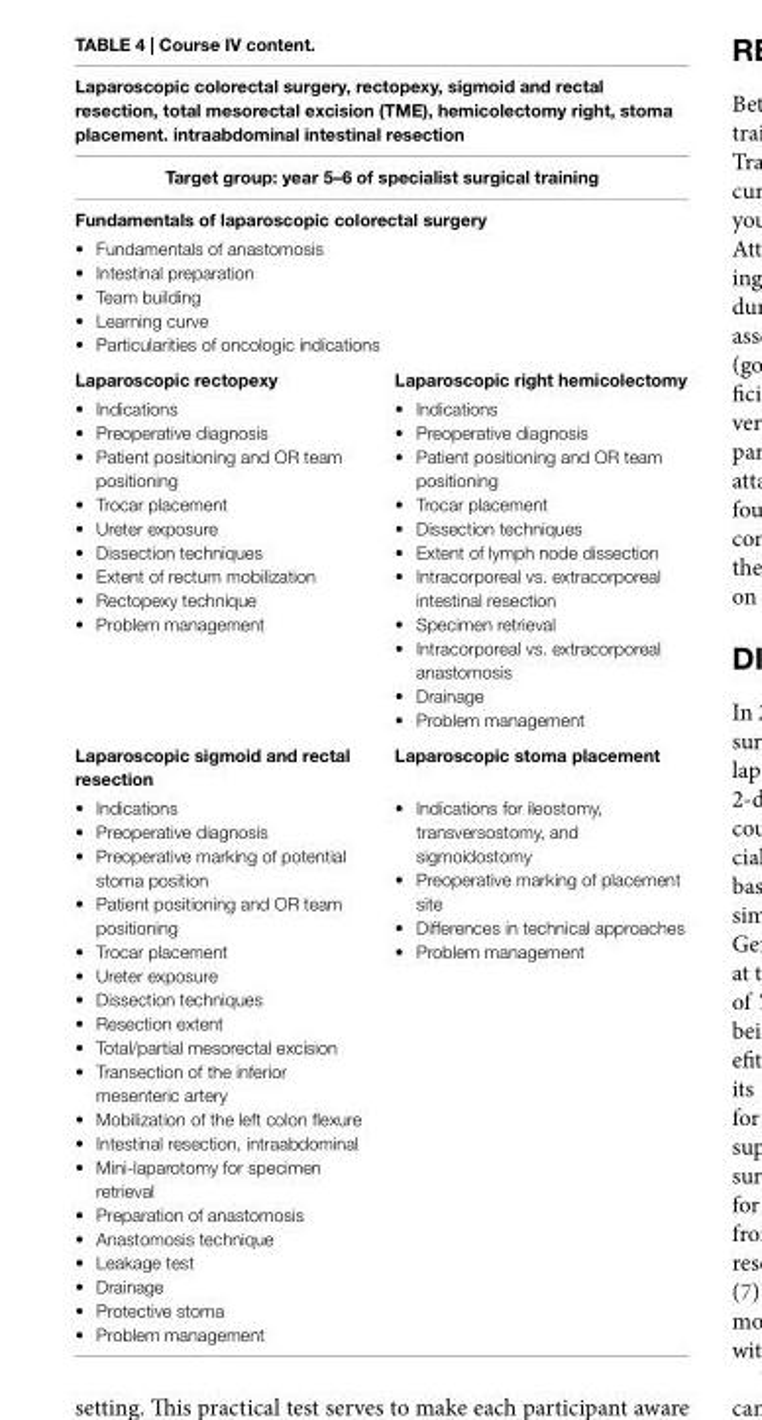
<table><thead><tr><td rowspan="4" colspan="2">laparoscopic colorectal surgery, rectopexy, sigmoid and rectal resection, total mesorectal excision (tme), hemicolectomy right, stoma placement. intraabdominal intestinal resection target group: year 5–6 of specialist surgical training Fundamentals of laparoscopic colorectal surgery • Fundamentals of anastomosis • Intestinal preparation • Team building • Learning curve • Particularities of oncologic indications</td></tr><tr></tr><tr></tr><tr></tr><tr><td>laparoscopic rectopexy</td><td>laparoscopic right hemicolectomy</td></tr></thead><tbody><tr><td>• Indications • Preoperative diagnosis • Patient positioning and OR team positioning • Trocar placement • Ureter exposure • Dissection techniques • Extent of rectum mobilization • Rectopexy technique • Problem management</td><td>• Indications • Preoperative diagnosis • Patient positioning and OR team positioning • Trocar placement • Dissection techniques • Extent of lymph node dissection • Intracorporeal vs. extracorporeal intestinal resection • Specimen retrieval • Intracorporeal vs. extracorporeal anastomosis • Drainage • Problem management</td></tr><tr><td>laparoscopic sigmoid and rectal resection</td><td>laparoscopic stoma placement</td></tr><tr><td>• Indications • Preoperative diagnosis • Preoperative marking of potential stoma position • Patient positioning and OR team positioning • Trocar placement • Ureter exposure • Dissection techniques • Resection extent • Total/partial mesorectal excision • Transection of the inferior mesenteric artery • Mobilization of the left colon flexure • Intestinal resection, intraabdominal • Mini-laparotomy for specimen retrieval • Preparation of anastomosis • Anastomosis technique • Leakage test • Drainage • Protective stoma • Problem management</td><td>• Indications for ileostomy, transversostomy, and sigmoidostomy • Preoperative marking of placement site • Differences in technical approaches • Problem management</td></tr></tbody></table>